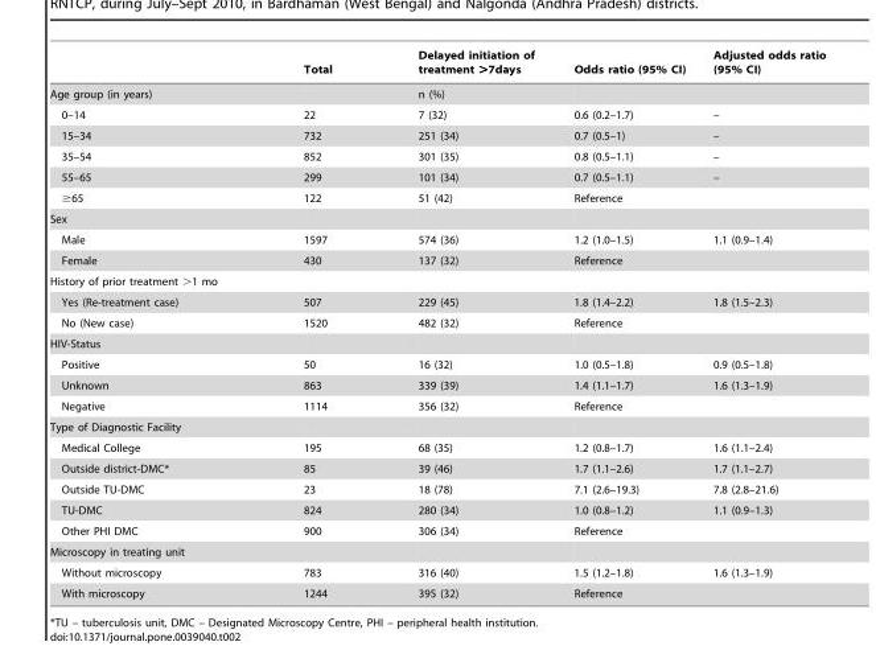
<table><thead><tr><td></td><td>Total</td><td>Delayed initiation of treatment &gt;7days</td><td>Odds ratio (95% CI)</td><td>Adjusted odds ratio (95% CI)</td></tr></thead><tbody><tr><td>Age group (in years)</td><td></td><td>n (%)</td><td></td><td></td></tr><tr><td>0–14</td><td>22</td><td>7 (32)</td><td>0.6 (0.2–1.7)</td><td>–</td></tr><tr><td>15–34</td><td>732</td><td>251 (34)</td><td>0.7 (0.5–1)</td><td>–</td></tr><tr><td>35–54</td><td>852</td><td>301 (35)</td><td>0.8 (0.5–1.1)</td><td>–</td></tr><tr><td>55–65</td><td>299</td><td>101 (34)</td><td>0.7 (0.5–1.1)</td><td>–</td></tr><tr><td>≥65</td><td>122</td><td>51 (42)</td><td>Reference</td><td></td></tr><tr><td colspan="5">Sex</td></tr><tr><td>Male</td><td>1597</td><td>574 (36)</td><td>1.2 (1.0–1.5)</td><td>1.1 (0.9–1.4)</td></tr><tr><td>Female</td><td>430</td><td>137 (32)</td><td>Reference</td><td></td></tr><tr><td colspan="5">History of prior treatment &gt;1 mo</td></tr><tr><td>Yes (Re-treatment case)</td><td>507</td><td>229 (45)</td><td>1.8 (1.4–2.2)</td><td>1.8 (1.5–2.3)</td></tr><tr><td>No (New case)</td><td>1520</td><td>482 (32)</td><td>Reference</td><td></td></tr><tr><td colspan="5">HIV-Status</td></tr><tr><td>Positive</td><td>50</td><td>16 (32)</td><td>1.0 (0.5–1.8)</td><td>0.9 (0.5–1.8)</td></tr><tr><td>Unknown</td><td>863</td><td>339 (39)</td><td>1.4 (1.1–1.7)</td><td>1.6 (1.3–1.9)</td></tr><tr><td>Negative</td><td>1114</td><td>356 (32)</td><td>Reference</td><td></td></tr><tr><td colspan="5">Type of Diagnostic Facility</td></tr><tr><td>Medical College</td><td>195</td><td>68 (35)</td><td>1.2 (0.8–1.7)</td><td>1.6 (1.1–2.4)</td></tr><tr><td>Outside district-DMC*</td><td>85</td><td>39 (46)</td><td>1.7 (1.1–2.6)</td><td>1.7 (1.1–2.7)</td></tr><tr><td>Outside TU-DMC</td><td>23</td><td>18 (78)</td><td>7.1 (2.6–19.3)</td><td>7.8 (2.8–21.6)</td></tr><tr><td>TU-DMC</td><td>824</td><td>280 (34)</td><td>1.0 (0.8–1.2)</td><td>1.1 (0.9–1.3)</td></tr><tr><td>Other PHI DMC</td><td>900</td><td>306 (34)</td><td>Reference</td><td></td></tr><tr><td colspan="5">Microscopy in treating unit</td></tr><tr><td>Without microscopy</td><td>783</td><td>316 (40)</td><td>1.5 (1.2–1.8)</td><td>1.6 (1.3–1.9)</td></tr><tr><td>With microscopy</td><td>1244</td><td>395 (32)</td><td>Reference</td><td></td></tr></tbody></table>